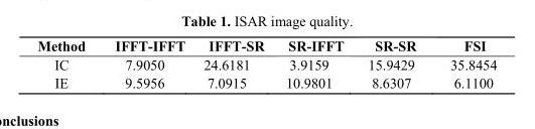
<table><thead><tr><td>Method</td><td>IFFT-IFFT</td><td>IFFT-SR</td><td>SR-IFFT</td><td>SR-SR</td><td>FSI</td></tr></thead><tbody><tr><td>IC</td><td>7.9050</td><td>24.6181</td><td>3.9159</td><td>15.9429</td><td>35.8454</td></tr><tr><td>IE</td><td>9.5956</td><td>7.0915</td><td>10.9801</td><td>8.6307</td><td>6.1100</td></tr></tbody></table>